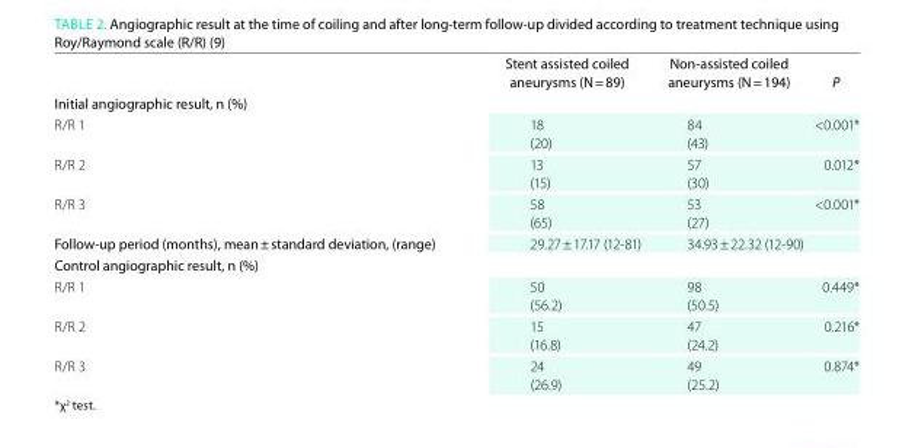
<table><thead><tr><td></td><td>stent assisted coiled aneurysms (N = 89)</td><td>Non-assisted coiled aneurysms (N = 194)</td><td>P</td></tr></thead><tbody><tr><td colspan="4">initial angiographic result, n (%)</td></tr><tr><td>R/R 1</td><td>18 (20)</td><td>84 (43)</td><td>&lt;0.001*</td></tr><tr><td>R/R 2</td><td>13 (15)</td><td>57 (30)</td><td>0.012*</td></tr><tr><td>R/R 3</td><td>58 (65)</td><td>53 (27)</td><td>&lt;0.001*</td></tr><tr><td>Follow-up period (months), mean ± standard deviation, (range)</td><td>29.27 ± 17.17 (12-81)</td><td>34.93 ± 22.32 (12-90)</td><td></td></tr><tr><td colspan="4">Control angiographic result, n (%)</td></tr><tr><td>R/R 1</td><td>50 (56.2)</td><td>98 (50.5)</td><td>0.449*</td></tr><tr><td>R/R 2</td><td>15 (16.8)</td><td>47 (24.2)</td><td>0.216*</td></tr><tr><td>R/R 3</td><td>24 (26.9)</td><td>49 (25.2)</td><td>0.874*</td></tr></tbody></table>